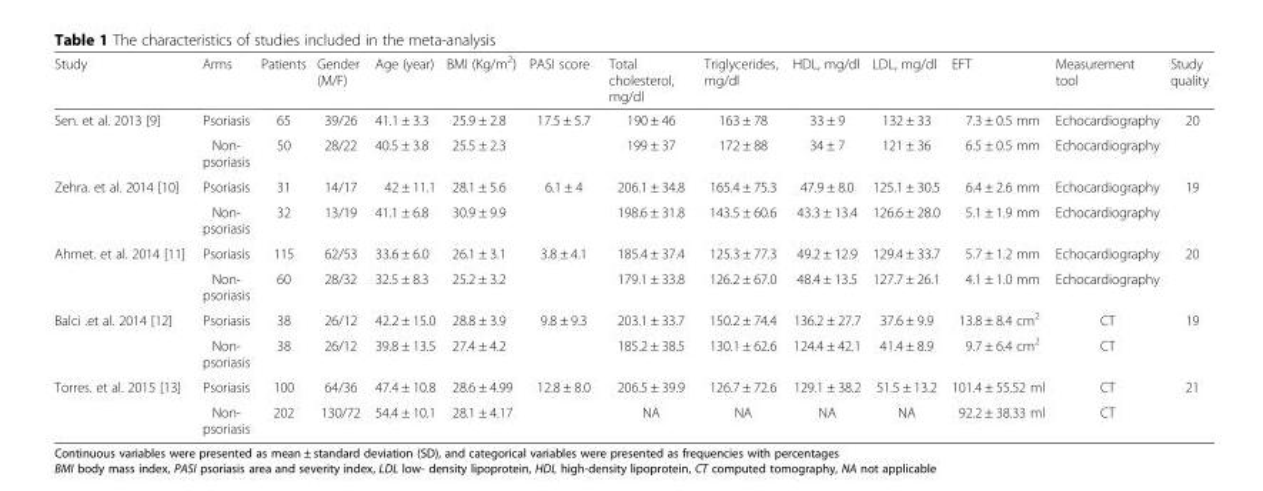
<table><thead><tr><td>Study</td><td>Arms</td><td>Patients</td><td>Gender (M/F)</td><td>Age (year)</td><td>BMI (Kg/m<sup>2</sup>)</td><td>PASI score</td><td>Total cholesterol, mg/dl</td><td>Triglycerides, mg/dl</td><td>HDL, mg/dl</td><td>LDL, mg/dl</td><td>EFT</td><td>Measurement tool</td><td>Study quality</td></tr></thead><tbody><tr><td rowspan="2">Sen. et al. 2013 [9]</td><td>Psoriasis</td><td>65</td><td>39/26</td><td>41.1 ± 3.3</td><td>25.9 ± 2.8</td><td>17.5 ± 5.7</td><td>190 ± 46</td><td>163 ± 78</td><td>33 ± 9</td><td>132 ± 33</td><td>7.3 ± 0.5 mm</td><td>Echocardiography</td><td>20</td></tr><tr><td>Non- psoriasis</td><td>50</td><td>28/22</td><td>40.5 ± 3.8</td><td>25.5 ± 2.3</td><td></td><td>199 ± 37</td><td>172 ± 88</td><td>34 ± 7</td><td>121 ± 36</td><td>6.5 ± 0.5 mm</td><td>Echocardiography</td><td></td></tr><tr><td rowspan="2">Zehra. et al. 2014 [10]</td><td>Psoriasis</td><td>31</td><td>14/17</td><td>42 ± 11.1</td><td>28.1 ± 5.6</td><td>6.1 ± 4</td><td>206.1 ± 34.8</td><td>165.4 ± 75.3</td><td>47.9 ± 8.0</td><td>125.1 ± 30.5</td><td>6.4 ± 2.6 mm</td><td>Echocardiography</td><td>19</td></tr><tr><td>Non- psoriasis</td><td>32</td><td>13/19</td><td>41.1 ± 6.8</td><td>30.9 ± 9.9</td><td></td><td>198.6 ± 31.8</td><td>143.5 ± 60.6</td><td>43.3 ± 13.4</td><td>126.6 ± 28.0</td><td>5.1 ± 1.9 mm</td><td>Echocardiography</td><td></td></tr><tr><td rowspan="2">Ahmet. et al. 2014 [11]</td><td>Psoriasis</td><td>115</td><td>62/53</td><td>33.6 ± 6.0</td><td>26.1 ± 3.1</td><td>3.8 ± 4.1</td><td>185.4 ± 37.4</td><td>125.3 ± 77.3</td><td>49.2 ± 12.9</td><td>129.4 ± 33.7</td><td>5.7 ± 1.2 mm</td><td>Echocardiography</td><td>20</td></tr><tr><td>Non- psoriasis</td><td>60</td><td>28/32</td><td>32.5 ± 8.3</td><td>25.2 ± 3.2</td><td></td><td>179.1 ± 33.8</td><td>126.2 ± 67.0</td><td>48.4 ± 13.5</td><td>127.7 ± 26.1</td><td>4.1 ± 1.0 mm</td><td>Echocardiography</td><td></td></tr><tr><td rowspan="2">Balci .et al. 2014 [12]</td><td>Psoriasis</td><td>38</td><td>26/12</td><td>42.2 ± 15.0</td><td>28.8 ± 3.9</td><td>9.8 ± 9.3</td><td>203.1 ± 33.7</td><td>150.2 ± 74.4</td><td>136.2 ± 27.7</td><td>37.6 ± 9.9</td><td>13.8 ± 8.4 cm<sup>2</sup></td><td>CT</td><td>19</td></tr><tr><td>Non- psoriasis</td><td>38</td><td>26/12</td><td>39.8 ± 13.5</td><td>27.4 ± 4.2</td><td></td><td>185.2 ± 38.5</td><td>130.1 ± 62.6</td><td>124.4 ± 42.1</td><td>41.4 ± 8.9</td><td>9.7 ± 6.4 cm<sup>2</sup></td><td>CT</td><td></td></tr><tr><td rowspan="2">Torres. et al. 2015 [13]</td><td>Psoriasis</td><td>100</td><td>64/36</td><td>47.4 ± 10.8</td><td>28.6 ± 4.99</td><td>12.8 ± 8.0</td><td>206.5 ± 39.9</td><td>126.7 ± 72.6</td><td>129.1 ± 38.2</td><td>51.5 ± 13.2</td><td>101.4 ± 55.52 ml</td><td>CT</td><td>21</td></tr><tr><td>Non- psoriasis</td><td>202</td><td>130/72</td><td>54.4 ± 10.1</td><td>28.1 ± 4.17</td><td></td><td>NA</td><td>NA</td><td>NA</td><td>NA</td><td>92.2 ± 38.33 ml</td><td>CT</td><td></td></tr></tbody></table>